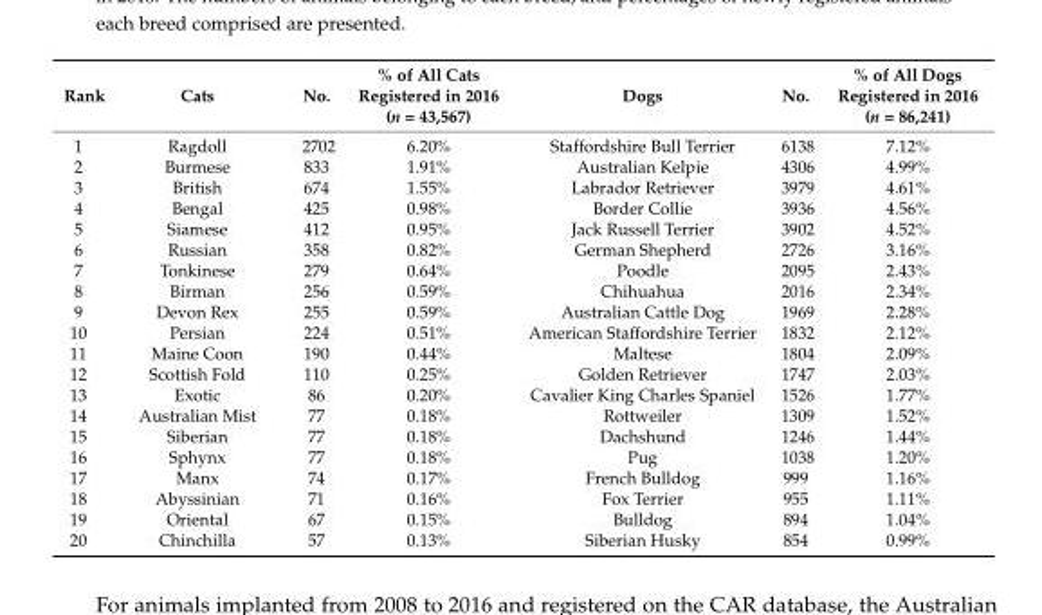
<table><thead><tr><td>Rank</td><td>Cats</td><td>No.</td><td>% of All Cats Registered in 2016 (n = 43,567)</td><td>Dogs</td><td>No.</td><td>% of All Dogs Registered in 2016 (n = 86,241)</td></tr></thead><tbody><tr><td>1</td><td>Ragdoll</td><td>2702</td><td>6.20%</td><td>Staffordshire Bull Terrier</td><td>6138</td><td>7.12%</td></tr><tr><td>2</td><td>Burmese</td><td>833</td><td>1.91%</td><td>Australian Kelpie</td><td>4306</td><td>4.99%</td></tr><tr><td>3</td><td>British</td><td>674</td><td>1.55%</td><td>Labrador Retriever</td><td>3979</td><td>4.61%</td></tr><tr><td>4</td><td>Bengal</td><td>425</td><td>0.98%</td><td>Border Collie</td><td>3936</td><td>4.56%</td></tr><tr><td>5</td><td>Siamese</td><td>412</td><td>0.95%</td><td>Jack Russell Terrier</td><td>3902</td><td>4.52%</td></tr><tr><td>6</td><td>Russian</td><td>358</td><td>0.82%</td><td>German Shepherd</td><td>2726</td><td>3.16%</td></tr><tr><td>7</td><td>Tonkinese</td><td>279</td><td>0.64%</td><td>Poodle</td><td>2095</td><td>2.43%</td></tr><tr><td>8</td><td>Birman</td><td>256</td><td>0.59%</td><td>Chihuahua</td><td>2016</td><td>2.34%</td></tr><tr><td>9</td><td>Devon Rex</td><td>255</td><td>0.59%</td><td>Australian Cattle Dog</td><td>1969</td><td>2.28%</td></tr><tr><td>10</td><td>Persian</td><td>224</td><td>0.51%</td><td>American Staffordshire Terrier</td><td>1832</td><td>2.12%</td></tr><tr><td>11</td><td>Maine Coon</td><td>190</td><td>0.44%</td><td>Maltese</td><td>1804</td><td>2.09%</td></tr><tr><td>12</td><td>Scottish Fold</td><td>110</td><td>0.25%</td><td>Golden Retriever</td><td>1747</td><td>2.03%</td></tr><tr><td>13</td><td>Exotic</td><td>86</td><td>0.20%</td><td>Cavalier King Charles Spaniel</td><td>1526</td><td>1.77%</td></tr><tr><td>14</td><td>Australian Mist</td><td>77</td><td>0.18%</td><td>Rottweiler</td><td>1309</td><td>1.52%</td></tr><tr><td>15</td><td>Siberian</td><td>77</td><td>0.18%</td><td>Dachshund</td><td>1246</td><td>1.44%</td></tr><tr><td>16</td><td>Sphynx</td><td>77</td><td>0.18%</td><td>Pug</td><td>1038</td><td>1.20%</td></tr><tr><td>17</td><td>Manx</td><td>74</td><td>0.17%</td><td>French Bulldog</td><td>999</td><td>1.16%</td></tr><tr><td>18</td><td>Abyssinian</td><td>71</td><td>0.16%</td><td>Fox Terrier</td><td>955</td><td>1.11%</td></tr><tr><td>19</td><td>Oriental</td><td>67</td><td>0.15%</td><td>Bulldog</td><td>894</td><td>1.04%</td></tr><tr><td>20</td><td>Chinchilla</td><td>57</td><td>0.13%</td><td>Siberian Husky</td><td>854</td><td>0.99%</td></tr></tbody></table>